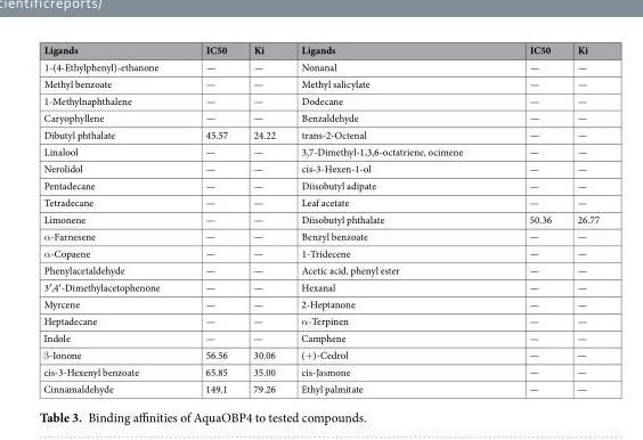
<table><thead><tr><td>Ligands</td><td>IC50</td><td>Ki</td><td>Ligands</td><td>IC50</td><td>Ki</td></tr></thead><tbody><tr><td>1-(4-Ethylphenyl)-ethanone</td><td>—</td><td>—</td><td>Nonanal</td><td>—</td><td>—</td></tr><tr><td>Methyl benzoate</td><td>—</td><td>—</td><td>Methyl salicylate</td><td>—</td><td>—</td></tr><tr><td>1-Methylnaphthalene</td><td>—</td><td>—</td><td>Dodecane</td><td>—</td><td>—</td></tr><tr><td>Caryophyllene</td><td>—</td><td>—</td><td>Benzaldehyde</td><td>—</td><td>—</td></tr><tr><td>Dibutyl phthalate</td><td>45.57</td><td>24.22</td><td>trans-2-Octenal</td><td>—</td><td>—</td></tr><tr><td>Linalool</td><td>—</td><td>—</td><td>3,7-Dimethyl-1,3,6-octatriene, ocimene</td><td>—</td><td>—</td></tr><tr><td>Nerolidol</td><td>—</td><td>—</td><td>cis-3-Hexen-1-ol</td><td>—</td><td>—</td></tr><tr><td>Pentadecane</td><td>—</td><td>—</td><td>Diisobutyl adipate</td><td>—</td><td>—</td></tr><tr><td>Tetradecane</td><td>—</td><td>—</td><td>Leaf acetate</td><td>—</td><td>—</td></tr><tr><td>Limonene</td><td>—</td><td>—</td><td>Diisobutyl phthalate</td><td>50.36</td><td>26.77</td></tr><tr><td>α-Farnesene</td><td>—</td><td>—</td><td>Benzyl benzoate</td><td>—</td><td>—</td></tr><tr><td>α-Copaene</td><td>—</td><td>—</td><td>1-Tridecene</td><td>—</td><td>—</td></tr><tr><td>Phenylacetaldehyde</td><td>—</td><td>—</td><td>Acetic acid, phenyl ester</td><td>—</td><td>—</td></tr><tr><td>3′,4′-Dimethylacetophenone</td><td>—</td><td>—</td><td>Hexanal</td><td>—</td><td>—</td></tr><tr><td>Myrcene</td><td>—</td><td>—</td><td>2-Heptanone</td><td>—</td><td>—</td></tr><tr><td>Heptadecane</td><td>—</td><td>—</td><td>α-Terpinen</td><td>—</td><td>—</td></tr><tr><td>Indole</td><td>—</td><td>—</td><td>Camphene</td><td>—</td><td>—</td></tr><tr><td>β-Ionone</td><td>56.56</td><td>30.06</td><td>(+)-Cedrol</td><td>—</td><td>—</td></tr><tr><td>cis-3-Hexenyl benzoate</td><td>65.85</td><td>35.00</td><td>cis-Jasmone</td><td>—</td><td>—</td></tr><tr><td>Cinnamaldehyde</td><td>149.1</td><td>79.26</td><td>Ethyl palmitate</td><td>—</td><td>—</td></tr></tbody></table>